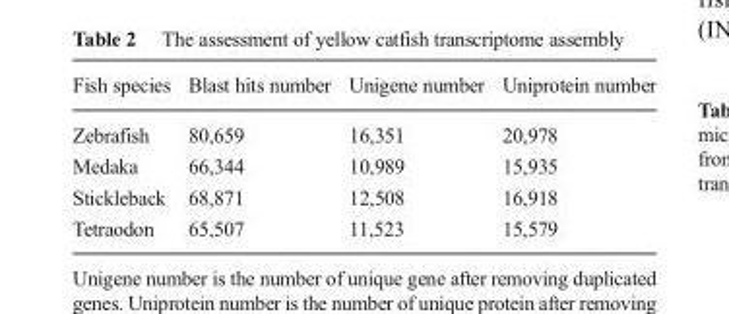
<table><thead><tr><td>Fish species</td><td>Blast hits number</td><td>Unigene number</td><td>Uniprotein number</td></tr></thead><tbody><tr><td>Zebrafish</td><td>80,659</td><td>16,351</td><td>20,978</td></tr><tr><td>Medaka</td><td>66,344</td><td>10,989</td><td>15,935</td></tr><tr><td>Stickleback</td><td>68,871</td><td>12,508</td><td>16,918</td></tr><tr><td>Tetraodon</td><td>65,507</td><td>11,523</td><td>15,579</td></tr></tbody></table>